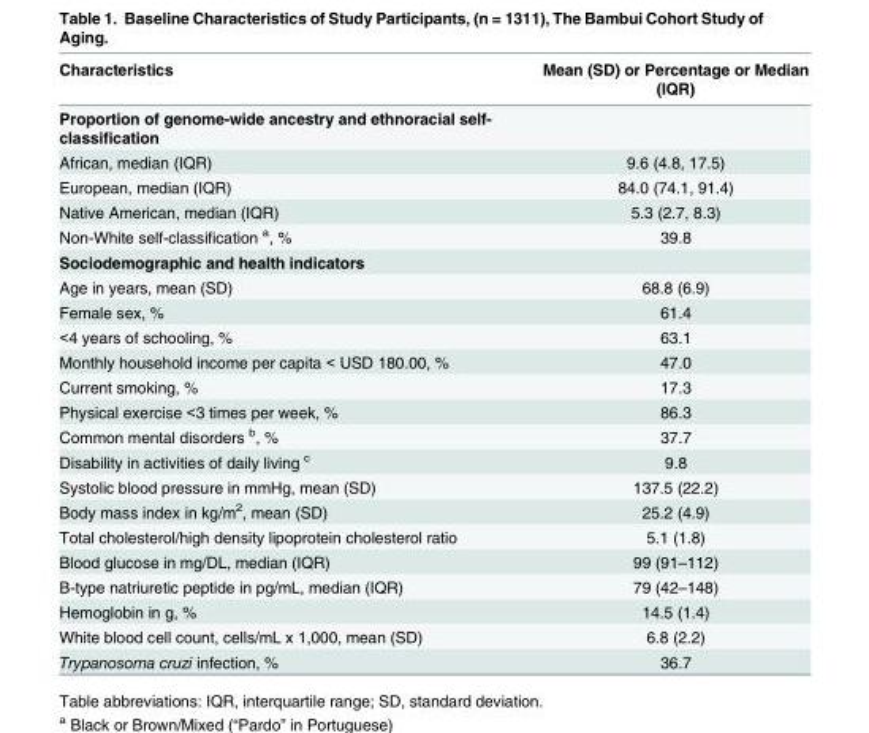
<table><thead><tr><td>Characteristics</td><td>Mean (SD) or Percentage or Median (IQR)</td></tr></thead><tbody><tr><td colspan="2">Proportion of genome-wide ancestry and ethnoracial self- classification</td></tr><tr><td>African, median (IQR)</td><td>9.6 (4.8, 17.5)</td></tr><tr><td>European, median (IQR)</td><td>84.0 (74.1, 91.4)</td></tr><tr><td>Native American, median (IQR)</td><td>5.3 (2.7, 8.3)</td></tr><tr><td>Non-White self-classification <sup>a</sup>, %</td><td>39.8</td></tr><tr><td colspan="2">Sociodemographic and health indicators</td></tr><tr><td>Age in years, mean (SD)</td><td>68.8 (6.9)</td></tr><tr><td>Female sex, %</td><td>61.4</td></tr><tr><td>&lt;4 years of schooling, %</td><td>63.1</td></tr><tr><td>Monthly household income per capita &lt; USD 180.00, %</td><td>47.0</td></tr><tr><td>Current smoking, %</td><td>17.3</td></tr><tr><td>Physical exercise &lt;3 times per week, %</td><td>86.3</td></tr><tr><td>Common mental disorders <sup>b</sup>, %</td><td>37.7</td></tr><tr><td>Disability in activities of daily living <sup>c</sup></td><td>9.8</td></tr><tr><td>Systolic blood pressure in mmHg, mean (SD)</td><td>137.5 (22.2)</td></tr><tr><td>Body mass index in kg/m<sup>2</sup>, mean (SD)</td><td>25.2 (4.9)</td></tr><tr><td>Total cholesterol/high density lipoprotein cholesterol ratio</td><td>5.1 (1.8)</td></tr><tr><td>Blood glucose in mg/DL, median (IQR)</td><td>99 (91–112)</td></tr><tr><td>B-type natriuretic peptide in pg/mL, median (IQR)</td><td>79 (42–148)</td></tr><tr><td>Hemoglobin in g, %</td><td>14.5 (1.4)</td></tr><tr><td>White blood cell count, cells/mL x 1,000, mean (SD)</td><td>6.8 (2.2)</td></tr><tr><td>Trypanosoma cruzi infection, %</td><td>36.7</td></tr></tbody></table>